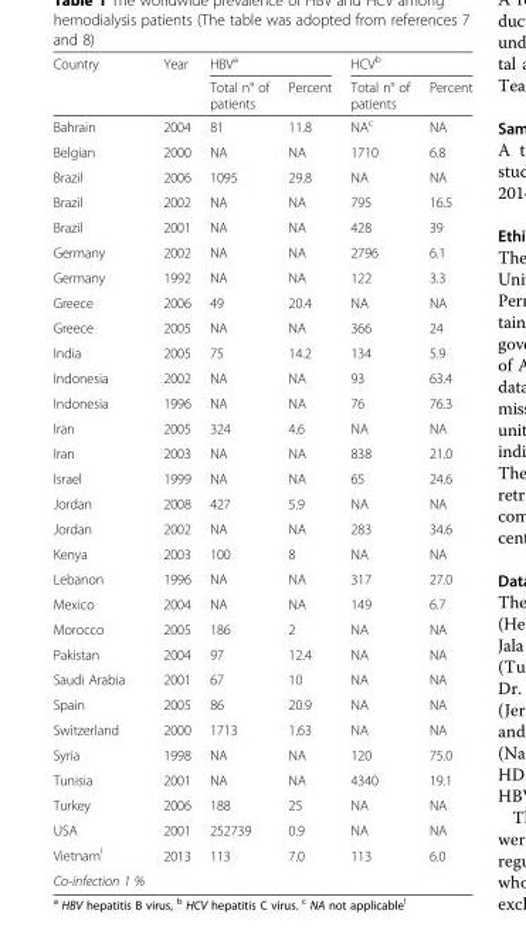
<table><thead><tr><td rowspan="2">Country</td><td rowspan="2">Year</td><td colspan="2">HBV<sup>a</sup></td><td colspan="2">HCV<sup>b</sup></td></tr><tr><td>Total n° of patients</td><td>Percent</td><td>Total n° of patients</td><td>Percent</td></tr></thead><tbody><tr><td>Bahrain</td><td>2004</td><td>81</td><td>11.8</td><td>NA<sup>c</sup></td><td>NA</td></tr><tr><td>Belgian</td><td>2000</td><td>NA</td><td>NA</td><td>1710</td><td>6.8</td></tr><tr><td>Brazil</td><td>2006</td><td>1095</td><td>29.8</td><td>NA</td><td>NA</td></tr><tr><td>Brazil</td><td>2002</td><td>NA</td><td>NA</td><td>795</td><td>16.5</td></tr><tr><td>Brazil</td><td>2001</td><td>NA</td><td>NA</td><td>428</td><td>39</td></tr><tr><td>Germany</td><td>2002</td><td>NA</td><td>NA</td><td>2796</td><td>6.1</td></tr><tr><td>Germany</td><td>1992</td><td>NA</td><td>NA</td><td>122</td><td>3.3</td></tr><tr><td>Greece</td><td>2006</td><td>49</td><td>20.4</td><td>NA</td><td>NA</td></tr><tr><td>Greece</td><td>2005</td><td>NA</td><td>NA</td><td>366</td><td>24</td></tr><tr><td>India</td><td>2005</td><td>75</td><td>14.2</td><td>134</td><td>5.9</td></tr><tr><td>Indonesia</td><td>2002</td><td>NA</td><td>NA</td><td>93</td><td>63.4</td></tr><tr><td>Indonesia</td><td>1996</td><td>NA</td><td>NA</td><td>76</td><td>76.3</td></tr><tr><td>Iran</td><td>2005</td><td>324</td><td>4.6</td><td>NA</td><td>NA</td></tr><tr><td>Iran</td><td>2003</td><td>NA</td><td>NA</td><td>838</td><td>21.0</td></tr><tr><td>Israel</td><td>1999</td><td>NA</td><td>NA</td><td>65</td><td>24.6</td></tr><tr><td>Jordan</td><td>2008</td><td>427</td><td>5.9</td><td>NA</td><td>NA</td></tr><tr><td>Jordan</td><td>2002</td><td>NA</td><td>NA</td><td>283</td><td>34.6</td></tr><tr><td>Kenya</td><td>2003</td><td>100</td><td>8</td><td>NA</td><td>NA</td></tr><tr><td>Lebanon</td><td>1996</td><td>NA</td><td>NA</td><td>317</td><td>27.0</td></tr><tr><td>Mexico</td><td>2004</td><td>NA</td><td>NA</td><td>149</td><td>6.7</td></tr><tr><td>Morocco</td><td>2005</td><td>186</td><td>2</td><td>NA</td><td>NA</td></tr><tr><td>Pakistan</td><td>2004</td><td>97</td><td>12.4</td><td>NA</td><td>NA</td></tr><tr><td>Saudi Arabia</td><td>2001</td><td>67</td><td>10</td><td>NA</td><td>NA</td></tr><tr><td>Spain</td><td>2005</td><td>86</td><td>20.9</td><td>NA</td><td>NA</td></tr><tr><td>Switzerland</td><td>2000</td><td>1713</td><td>1.63</td><td>NA</td><td>NA</td></tr><tr><td>Syria</td><td>1998</td><td>NA</td><td>NA</td><td>120</td><td>75.0</td></tr><tr><td>Tunisia</td><td>2001</td><td>NA</td><td>NA</td><td>4340</td><td>19.1</td></tr><tr><td>Turkey</td><td>2006</td><td>188</td><td>25</td><td>NA</td><td>NA</td></tr><tr><td>USA</td><td>2001</td><td>252739</td><td>0.9</td><td>NA</td><td>NA</td></tr><tr><td>Vietnam<sup>!</sup></td><td rowspan="2">2013</td><td rowspan="2">113</td><td rowspan="2">7.0</td><td rowspan="2">113</td><td rowspan="2">6.0</td></tr><tr><td>Co-infection 1 %</td></tr></tbody></table>